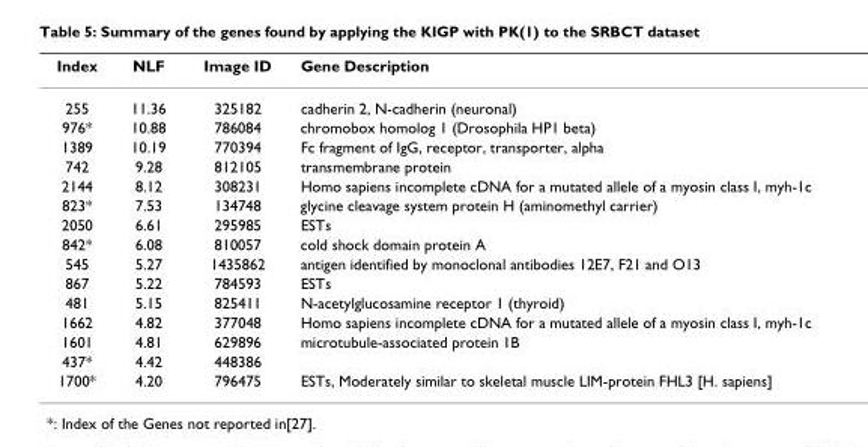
<table><thead><tr><td>Index</td><td>NLF</td><td>Image ID</td><td>Gene Description</td></tr></thead><tbody><tr><td>255</td><td>11.36</td><td>325182</td><td>cadherin 2, N-cadherin (neuronal)</td></tr><tr><td>976*</td><td>10.88</td><td>786084</td><td>chromobox homolog 1 (Drosophila HP1 beta)</td></tr><tr><td>1389</td><td>10.19</td><td>770394</td><td>Fc fragment of IgG, receptor, transporter, alpha</td></tr><tr><td>742</td><td>9.28</td><td>812105</td><td>transmembrane protein</td></tr><tr><td>2144</td><td>8.12</td><td>308231</td><td>Homo sapiens incomplete cDNA for a mutated allele of a myosin class I, myh-1c</td></tr><tr><td>823*</td><td>7.53</td><td>134748</td><td>glycine cleavage system protein H (aminomethyl carrier)</td></tr><tr><td>2050</td><td>6.61</td><td>295985</td><td>ESTs</td></tr><tr><td>842*</td><td>6.08</td><td>810057</td><td>cold shock domain protein A</td></tr><tr><td>545</td><td>5.27</td><td>1435862</td><td>antigen identified by monoclonal antibodies 12E7, F21 and O13</td></tr><tr><td>867</td><td>5.22</td><td>784593</td><td>ESTs</td></tr><tr><td>481</td><td>5.15</td><td>825411</td><td>N-acetylglucosamine receptor 1 (thyroid)</td></tr><tr><td>1662</td><td>4.82</td><td>377048</td><td>Homo sapiens incomplete cDNA for a mutated allele of a myosin class I, myh-1c</td></tr><tr><td>1601</td><td>4.81</td><td>629896</td><td>microtubule-associated protein 1B</td></tr><tr><td>437*</td><td>4.42</td><td>448386</td><td></td></tr><tr><td>1700*</td><td>4.20</td><td>796475</td><td>ESTs, Moderately similar to skeletal muscle LIM-protein FHL3 [H. sapiens]</td></tr></tbody></table>